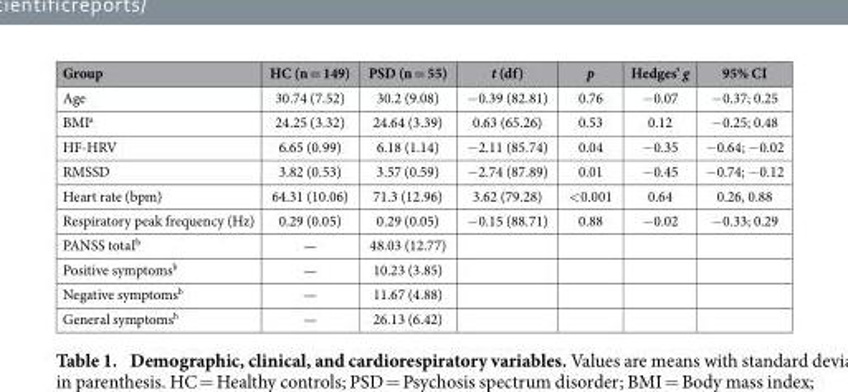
<table><thead><tr><td>Group</td><td>HC (n = 149)</td><td>PSD (n = 55)</td><td>t (df)</td><td>p</td><td>Hedges’ g</td><td>95% CI</td></tr></thead><tbody><tr><td>Age</td><td>30.74 (7.52)</td><td>30.2 (9.08)</td><td>− 0.39 (82.81)</td><td>0.76</td><td>− 0.07</td><td>− 0.37; 0.25</td></tr><tr><td>BMI<sup>a</sup></td><td>24.25 (3.32)</td><td>24.64 (3.39)</td><td>0.63 (65.26)</td><td>0.53</td><td>0.12</td><td>− 0.25; 0.48</td></tr><tr><td>HF-HRV</td><td>6.65 (0.99)</td><td>6.18 (1.14)</td><td>− 2.11 (85.74)</td><td>0.04</td><td>− 0.35</td><td>− 0.64; −0.02</td></tr><tr><td>RMSSD</td><td>3.82 (0.53)</td><td>3.57 (0.59)</td><td>− 2.74 (87.89)</td><td>0.01</td><td>− 0.45</td><td>− 0.74; −0.12</td></tr><tr><td>Heart rate (bpm)</td><td>64.31 (10.06)</td><td>71.3 (12.96)</td><td>3.62 (79.28)</td><td>&lt; 0.001</td><td>0.64</td><td>0.26, 0.88</td></tr><tr><td>Respiratory peak frequency (Hz)</td><td>0.29 (0.05)</td><td>0.29 (0.05)</td><td>− 0.15 (88.71)</td><td>0.88</td><td>− 0.02</td><td>− 0.33; 0.29</td></tr><tr><td>PANSS totaI<sup>b</sup></td><td>—</td><td>48.03 (12.77)</td><td></td><td></td><td></td><td></td></tr><tr><td>Positive symptoms<sup>b</sup></td><td>—</td><td>10.23 (3.85)</td><td></td><td></td><td></td><td></td></tr><tr><td>Negative symptoms<sup>b</sup></td><td>—</td><td>11.67 (4.88)</td><td></td><td></td><td></td><td></td></tr><tr><td>General symptoms<sup>b</sup></td><td>—</td><td>26.13 (6.42)</td><td></td><td></td><td></td><td></td></tr></tbody></table>